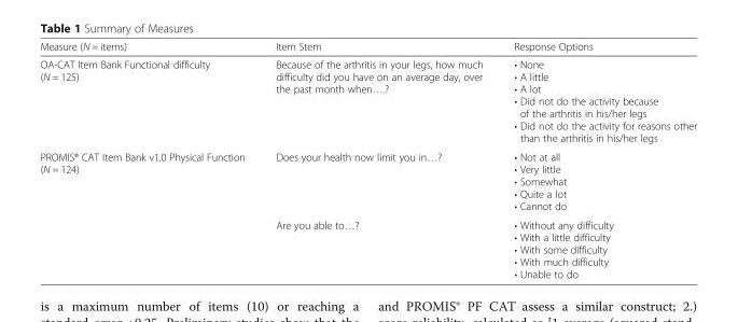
<table><thead><tr><td>Measure (N = items)</td><td>Item Stem</td><td>Response Options</td></tr></thead><tbody><tr><td>OA-CAT Item Bank Functional difficulty (N = 125)</td><td>Because of the arthritis in your legs, how much difficulty did you have on an average day, over the past month when….?</td><td>• None • A little • A lot • Did not do the activity because of the arthritis in his/her legs • Did not do the activity for reasons other than the arthritis in his/her legs</td></tr><tr><td rowspan="2">PROMIS® CAT Item Bank v1.0 Physical Function (N = 124)</td><td>Does your health now limit you in…?</td><td>• Not at all • Very little • Somewhat • Quite a lot • Cannot do</td></tr><tr><td>Are you able to…?</td><td>• Without any difficulty • With a little difficulty • With some difficulty • With much difficulty • Unable to do</td></tr></tbody></table>